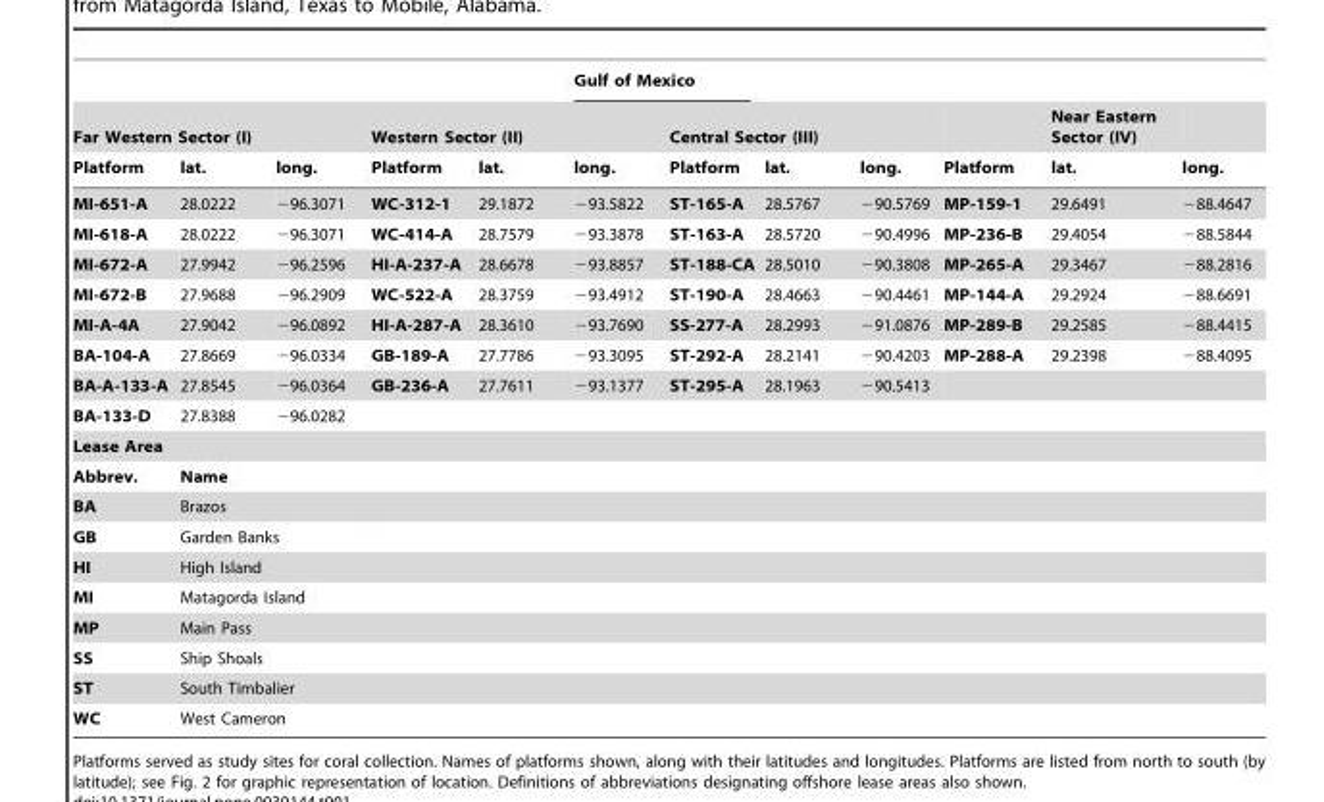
<table><thead><tr><td></td><td></td><td></td><td></td><td></td><td colspan="2">Gulf of Mexico</td><td></td><td></td><td rowspan="3">Platform</td><td rowspan="3">Near Eastern Sector (IV) lat.</td><td rowspan="3">long.</td></tr><tr><td colspan="3">Far Western Sector (I)</td><td colspan="3">Western Sector (II)</td><td colspan="3">Central Sector (III)</td></tr><tr><td>Platform</td><td>lat.</td><td>long.</td><td>Platform</td><td>lat.</td><td>long.</td><td>Platform</td><td>lat.</td><td>long.</td></tr></thead><tbody><tr><td>MI-651-A</td><td>28.0222</td><td>−96.3071</td><td>WC-312-1</td><td>29.1872</td><td>−93.5822</td><td>ST-165-A</td><td>28.5767</td><td>−90.5769</td><td>MP-159-1</td><td>29.6491</td><td>−88.4647</td></tr><tr><td>MI-618-A</td><td>28.0222</td><td>−96.3071</td><td>WC-414-A</td><td>28.7579</td><td>−93.3878</td><td>ST-163-A</td><td>28.5720</td><td>−90.4996</td><td>MP-236-B</td><td>29.4054</td><td>−88.5844</td></tr><tr><td>MI-672-A</td><td>27.9942</td><td>−96.2596</td><td>HI-A-237-A</td><td>28.6678</td><td>−93.8857</td><td>ST-188-CA</td><td>28.5010</td><td>−90.3808</td><td>MP-265-A</td><td>29.3467</td><td>−88.2816</td></tr><tr><td>MI-672-B</td><td>27.9688</td><td>−96.2909</td><td>WC-522-A</td><td>28.3759</td><td>−93.4912</td><td>ST-190-A</td><td>28.4663</td><td>−90.4461</td><td>MP-144-A</td><td>29.2924</td><td>−88.6691</td></tr><tr><td>MI-A-4A</td><td>27.9042</td><td>−96.0892</td><td>HI-A-287-A</td><td>28.3610</td><td>−93.7690</td><td>SS-277-A</td><td>28.2993</td><td>−91.0876</td><td>MP-289-B</td><td>29.2585</td><td>−88.4415</td></tr><tr><td>BA-104-A</td><td>27.8669</td><td>−96.0334</td><td>GB-189-A</td><td>27.7786</td><td>−93.3095</td><td>ST-292-A</td><td>28.2141</td><td>−90.4203</td><td>MP-288-A</td><td>29.2398</td><td>−88.4095</td></tr><tr><td>BA-A-133-A</td><td>27.8545</td><td>−96.0364</td><td>GB-236-A</td><td>27.7611</td><td>−93.1377</td><td>ST-295-A</td><td>28.1963</td><td>−90.5413</td><td colspan="3"></td></tr><tr><td>BA-133-D</td><td>27.8388</td><td>−96.0282</td><td colspan="9"></td></tr><tr><td colspan="12">Lease Area</td></tr><tr><td>Abbrev.</td><td colspan="2">Name</td><td colspan="9"></td></tr><tr><td>BA</td><td colspan="2">Brazos</td><td colspan="9"></td></tr><tr><td>GB</td><td colspan="2">Garden Banks</td><td colspan="9"></td></tr><tr><td>HI</td><td colspan="2">High Island</td><td colspan="9"></td></tr><tr><td>MI</td><td colspan="2">Matagorda Island</td><td colspan="9"></td></tr><tr><td>MP</td><td colspan="2">Main Pass</td><td colspan="9"></td></tr><tr><td>SS</td><td colspan="2">Ship Shoals</td><td colspan="9"></td></tr><tr><td>ST</td><td colspan="2">South Timbalier</td><td colspan="9"></td></tr><tr><td>WC</td><td colspan="2">West Cameron</td><td colspan="9"></td></tr></tbody></table>